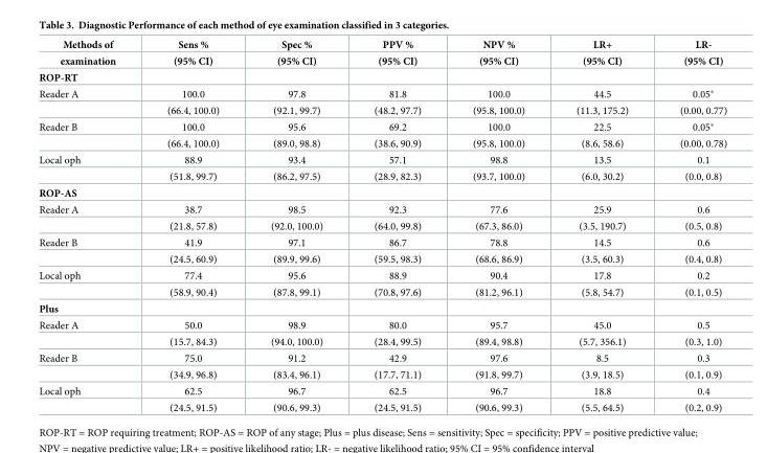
<table><thead><tr><td rowspan="2">Methods of examination</td><td rowspan="2">Sens % (95% CI)</td><td rowspan="2">Spec % (95% CI)</td><td rowspan="2">PPV % (95% CI)</td><td rowspan="2">NPV % (95% CI)</td><td rowspan="2">LR+ (95% CI)</td><td rowspan="2">LR- (95% CI)</td></tr><tr></tr></thead><tbody><tr><td colspan="7">ROP-RT</td></tr><tr><td rowspan="2">Reader A</td><td>100.0</td><td>97.8</td><td>81.8</td><td>100.0</td><td>44.5</td><td>0.05*</td></tr><tr><td>(66.4, 100.0)</td><td>(92.1, 99.7)</td><td>(48.2, 97.7)</td><td>(95.8, 100.0)</td><td>(11.3, 175.2)</td><td>(0.00, 0.77)</td></tr><tr><td rowspan="2">Reader B</td><td>100.0</td><td>95.6</td><td>69.2</td><td>100.0</td><td>22.5</td><td>0.05*</td></tr><tr><td>(66.4, 100.0)</td><td>(89.0, 98.8)</td><td>(38.6, 90.9)</td><td>(95.8, 100.0)</td><td>(8.6, 58.6)</td><td>(0.00, 0.78)</td></tr><tr><td rowspan="2">Local oph</td><td>88.9</td><td>93.4</td><td>57.1</td><td>98.8</td><td>13.5</td><td>0.1</td></tr><tr><td>(51.8, 99.7)</td><td>(86.2, 97.5)</td><td>(28.9, 82.3)</td><td>(93.7, 100.0)</td><td>(6.0, 30.2)</td><td>(0.0, 0.8)</td></tr><tr><td colspan="7">ROP-AS</td></tr><tr><td rowspan="2">Reader A</td><td>38.7</td><td>98.5</td><td>92.3</td><td>77.6</td><td>25.9</td><td>0.6</td></tr><tr><td>(21.8, 57.8)</td><td>(92.0, 100.0)</td><td>(64.0, 99.8)</td><td>(67.3, 86.0)</td><td>(3.5, 190.7)</td><td>(0.5, 0.8)</td></tr><tr><td rowspan="2">Reader B</td><td>41.9</td><td>97.1</td><td>86.7</td><td>78.8</td><td>14.5</td><td>0.6</td></tr><tr><td>(24.5, 60.9)</td><td>(89.9, 99.6)</td><td>(59.5, 98.3)</td><td>(68.6, 86.9)</td><td>(3.5, 60.3)</td><td>(0.4, 0.8)</td></tr><tr><td rowspan="2">Local oph</td><td>77.4</td><td>95.6</td><td>88.9</td><td>90.4</td><td>17.8</td><td>0.2</td></tr><tr><td>(58.9, 90.4)</td><td>(87.8, 99.1)</td><td>(70.8, 97.6)</td><td>(81.2, 96.1)</td><td>(5.8, 54.7)</td><td>(0.1, 0.5)</td></tr><tr><td colspan="7">Plus</td></tr><tr><td rowspan="2">Reader A</td><td>50.0</td><td>98.9</td><td>80.0</td><td>95.7</td><td>45.0</td><td>0.5</td></tr><tr><td>(15.7, 84.3)</td><td>(94.0, 100.0)</td><td>(28.4, 99.5)</td><td>(89.4, 98.8)</td><td>(5.7, 356.1)</td><td>(0.3, 1.0)</td></tr><tr><td rowspan="2">Reader B</td><td>75.0</td><td>91.2</td><td>42.9</td><td>97.6</td><td>8.5</td><td>0.3</td></tr><tr><td>(34.9, 96.8)</td><td>(83.4, 96.1)</td><td>(17.7, 71.1)</td><td>(91.8, 99.7)</td><td>(3.9, 18.5)</td><td>(0.1, 0.9)</td></tr><tr><td rowspan="2">Local oph</td><td>62.5</td><td>96.7</td><td>62.5</td><td>96.7</td><td>18.8</td><td>0.4</td></tr><tr><td>(24.5, 91.5)</td><td>(90.6, 99.3)</td><td>(24.5, 91.5)</td><td>(90.6, 99.3)</td><td>(5.5, 64.5)</td><td>(0.2, 0.9)</td></tr></tbody></table>